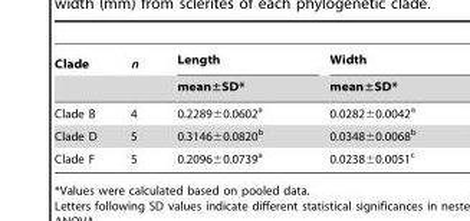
<table><thead><tr><td rowspan="2">Clade</td><td rowspan="2">n</td><td rowspan="2">Length mean±SD*</td><td rowspan="2">Width mean±SD*</td></tr><tr></tr></thead><tbody><tr><td>Clade B</td><td>4</td><td>0.2289±0.0602<sup>a</sup></td><td>0.0282±0.0042<sup>a</sup></td></tr><tr><td>Clade D</td><td>5</td><td>0.3146±0.0820<sup>b</sup></td><td>0.0348±0.0068<sup>b</sup></td></tr><tr><td>Clade F</td><td>5</td><td>0.2096±0.0739<sup>a</sup></td><td>0.0238±0.0051<sup>c</sup></td></tr></tbody></table>